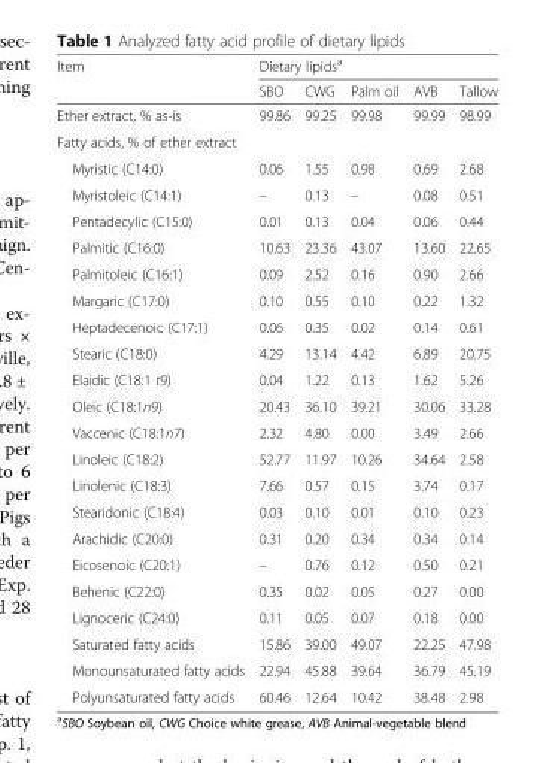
<table><thead><tr><td rowspan="2">Item</td><td colspan="5">Dietary lipids<sup>a</sup></td></tr><tr><td>SBO</td><td>CWG</td><td>Palm oil</td><td>AVB</td><td>Tallow</td></tr></thead><tbody><tr><td>Ether extract, % as-is</td><td>99.86</td><td>99.25</td><td>99.98</td><td>99.99</td><td>98.99</td></tr><tr><td colspan="6">Fatty acids, % of ether extract</td></tr><tr><td>Myristic (C14:0)</td><td>0.06</td><td>1.55</td><td>0.98</td><td>0.69</td><td>2.68</td></tr><tr><td>Myristoleic (C14:1)</td><td>–</td><td>0.13</td><td>–</td><td>0.08</td><td>0.51</td></tr><tr><td>Pentadecylic (C15:0)</td><td>0.01</td><td>0.13</td><td>0.04</td><td>0.06</td><td>0.44</td></tr><tr><td>Palmitic (C16:0)</td><td>10.63</td><td>23.36</td><td>43.07</td><td>13.60</td><td>22.65</td></tr><tr><td>Palmitoleic (C16:1)</td><td>0.09</td><td>2.52</td><td>0.16</td><td>0.90</td><td>2.66</td></tr><tr><td>Margaric (C17:0)</td><td>0.10</td><td>0.55</td><td>0.10</td><td>0.22</td><td>1.32</td></tr><tr><td>Heptadecenoic (C17:1)</td><td>0.06</td><td>0.35</td><td>0.02</td><td>0.14</td><td>0.61</td></tr><tr><td>Stearic (C18:0)</td><td>4.29</td><td>13.14</td><td>4.42</td><td>6.89</td><td>20.75</td></tr><tr><td>Elaidic (C18:1 t9)</td><td>0.04</td><td>1.22</td><td>0.13</td><td>1.62</td><td>5.26</td></tr><tr><td>Oleic (C18:1n9)</td><td>20.43</td><td>36.10</td><td>39.21</td><td>30.06</td><td>33.28</td></tr><tr><td>Vaccenic (C18:1n7)</td><td>2.32</td><td>4.80</td><td>0.00</td><td>3.49</td><td>2.66</td></tr><tr><td>Linoleic (C18:2)</td><td>52.77</td><td>11.97</td><td>10.26</td><td>34.64</td><td>2.58</td></tr><tr><td>Linolenic (C18:3)</td><td>7.66</td><td>0.57</td><td>0.15</td><td>3.74</td><td>0.17</td></tr><tr><td>Stearidonic (C18:4)</td><td>0.03</td><td>0.10</td><td>0.01</td><td>0.10</td><td>0.23</td></tr><tr><td>Arachidic (C20:0)</td><td>0.31</td><td>0.20</td><td>0.34</td><td>0.34</td><td>0.14</td></tr><tr><td>Eicosenoic (C20:1)</td><td>–</td><td>0.76</td><td>0.12</td><td>0.50</td><td>0.21</td></tr><tr><td>Behenic (C22:0)</td><td>0.35</td><td>0.02</td><td>0.05</td><td>0.27</td><td>0.00</td></tr><tr><td>Lignoceric (C24:0)</td><td>0.11</td><td>0.05</td><td>0.07</td><td>0.18</td><td>0.00</td></tr><tr><td>Saturated fatty acids</td><td>15.86</td><td>39.00</td><td>49.07</td><td>22.25</td><td>47.98</td></tr><tr><td>Monounsaturated fatty acids</td><td>22.94</td><td>45.88</td><td>39.64</td><td>36.79</td><td>45.19</td></tr><tr><td>Polyunsaturated fatty acids</td><td>60.46</td><td>12.64</td><td>10.42</td><td>38.48</td><td>2.98</td></tr></tbody></table>